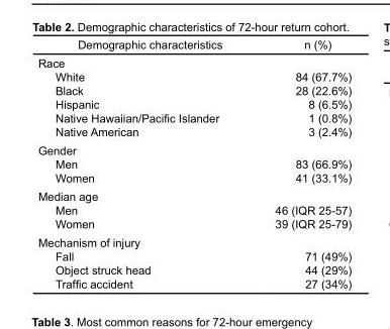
<table><thead><tr><td>Demographic characteristics</td><td>n (%)</td></tr></thead><tbody><tr><td colspan="2">Race</td></tr><tr><td>White</td><td>84 (67.7%)</td></tr><tr><td>Black</td><td>28 (22.6%)</td></tr><tr><td>Hispanic</td><td>8 (6.5%)</td></tr><tr><td>Native Hawaiian/Pacific Islander</td><td>1 (0.8%)</td></tr><tr><td>Native American</td><td>3 (2.4%)</td></tr><tr><td colspan="2">Gender</td></tr><tr><td>Men</td><td>83 (66.9%)</td></tr><tr><td>Women</td><td>41 (33.1%)</td></tr><tr><td colspan="2">Median age</td></tr><tr><td>Men</td><td>46 (IQR 25-57)</td></tr><tr><td>Women</td><td>39 (IQR 25-79)</td></tr><tr><td colspan="2">Mechanism of injury</td></tr><tr><td>Fall</td><td>71 (49%)</td></tr><tr><td>Object struck head</td><td>44 (29%)</td></tr><tr><td>Traffic accident</td><td>27 (34%)</td></tr></tbody></table>